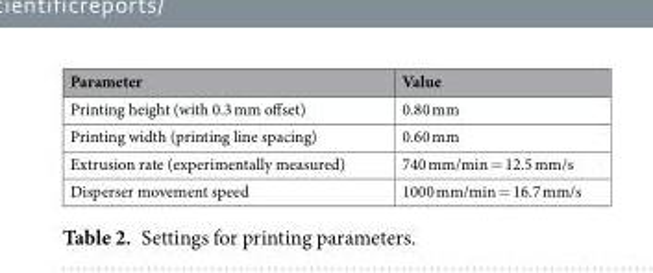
<table><thead><tr><td>Parameter</td><td>Value</td></tr></thead><tbody><tr><td>Printing height (with 0.3 mm offset)</td><td>0.80 mm</td></tr><tr><td>Printing width (printing line spacing)</td><td>0.60 mm</td></tr><tr><td>Extrusion rate (experimentally measured)</td><td>740 mm/min = 12.5 mm/s</td></tr><tr><td>Disperser movement speed</td><td>1000 mm/min = 16.7 mm/s</td></tr></tbody></table>